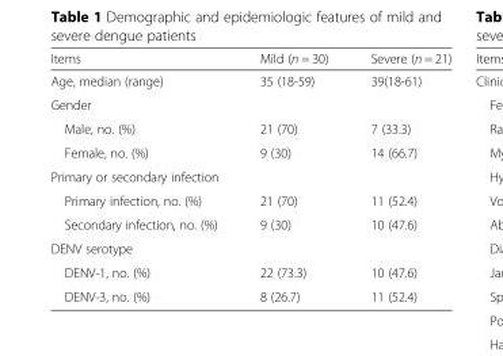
<table><thead><tr><td>Items</td><td>Mild (n = 30)</td><td>Severe (n = 21)</td></tr></thead><tbody><tr><td>Age, median (range)</td><td>35 (18-59)</td><td>39(18-61)</td></tr><tr><td colspan="3">Gender</td></tr><tr><td>Male, no. (%)</td><td>21 (70)</td><td>7 (33.3)</td></tr><tr><td>Female, no. (%)</td><td>9 (30)</td><td>14 (66.7)</td></tr><tr><td colspan="3">Primary or secondary infection</td></tr><tr><td>Primary infection, no. (%)</td><td>21 (70)</td><td>11 (52.4)</td></tr><tr><td>Secondary infection, no. (%)</td><td>9 (30)</td><td>10 (47.6)</td></tr><tr><td colspan="3">DENV serotype</td></tr><tr><td>DENV-1, no. (%)</td><td>22 (73.3)</td><td>10 (47.6)</td></tr><tr><td>DENV-3, no. (%)</td><td>8 (26.7)</td><td>11 (52.4)</td></tr></tbody></table>